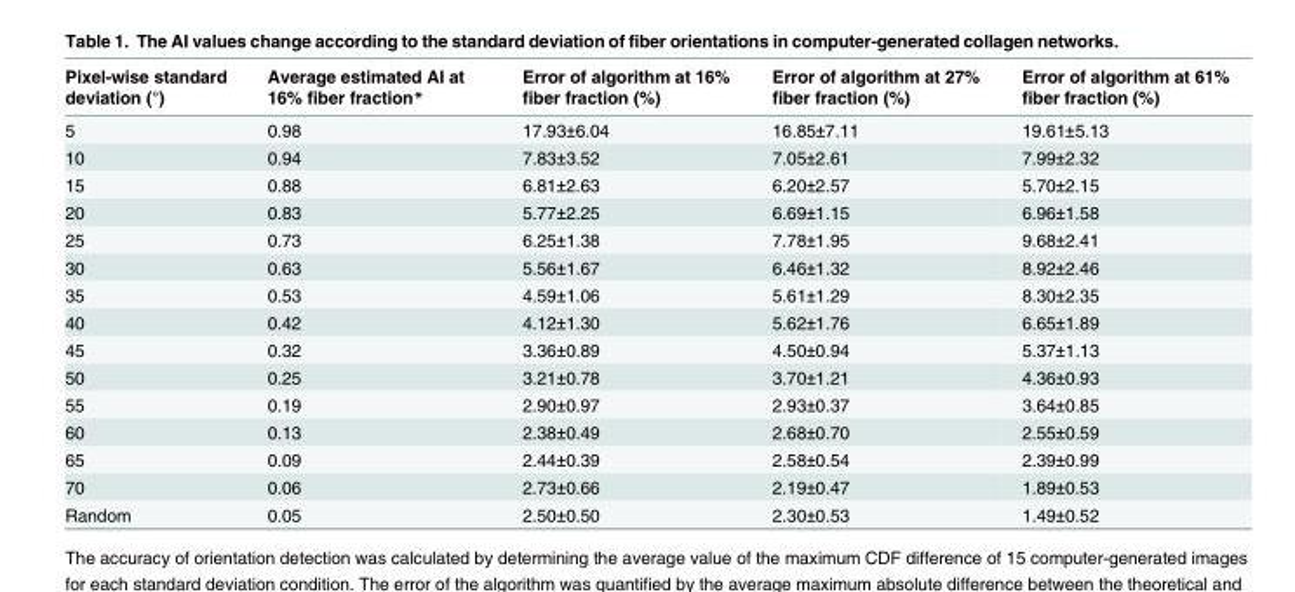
<table><thead><tr><td>Pixel-wise standard deviation (°)</td><td>Average estimated AI at 16% fiber fraction*</td><td>Error of algorithm at 16% fiber fraction (%)</td><td>Error of algorithm at 27% fiber fraction (%)</td><td>Error of algorithm at 61% fiber fraction (%)</td></tr></thead><tbody><tr><td>5</td><td>0.98</td><td>17.93±6.04</td><td>16.85±7.11</td><td>19.61±5.13</td></tr><tr><td>10</td><td>0.94</td><td>7.83±3.52</td><td>7.05±2.61</td><td>7.99±2.32</td></tr><tr><td>15</td><td>0.88</td><td>6.81±2.63</td><td>6.20±2.57</td><td>5.70±2.15</td></tr><tr><td>20</td><td>0.83</td><td>5.77±2.25</td><td>6.69±1.15</td><td>6.96±1.58</td></tr><tr><td>25</td><td>0.73</td><td>6.25±1.38</td><td>7.78±1.95</td><td>9.68±2.41</td></tr><tr><td>30</td><td>0.63</td><td>5.56±1.67</td><td>6.46±1.32</td><td>8.92±2.46</td></tr><tr><td>35</td><td>0.53</td><td>4.59±1.06</td><td>5.61±1.29</td><td>8.30±2.35</td></tr><tr><td>40</td><td>0.42</td><td>4.12±1.30</td><td>5.62±1.76</td><td>6.65±1.89</td></tr><tr><td>45</td><td>0.32</td><td>3.36±0.89</td><td>4.50±0.94</td><td>5.37±1.13</td></tr><tr><td>50</td><td>0.25</td><td>3.21±0.78</td><td>3.70±1.21</td><td>4.36±0.93</td></tr><tr><td>55</td><td>0.19</td><td>2.90±0.97</td><td>2.93±0.37</td><td>3.64±0.85</td></tr><tr><td>60</td><td>0.13</td><td>2.38±0.49</td><td>2.68±0.70</td><td>2.55±0.59</td></tr><tr><td>65</td><td>0.09</td><td>2.44±0.39</td><td>2.58±0.54</td><td>2.39±0.99</td></tr><tr><td>70</td><td>0.06</td><td>2.73±0.66</td><td>2.19±0.47</td><td>1.89±0.53</td></tr><tr><td>Random</td><td>0.05</td><td>2.50±0.50</td><td>2.30±0.53</td><td>1.49±0.52</td></tr></tbody></table>